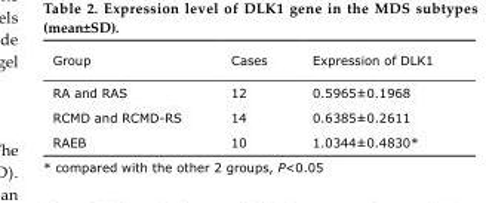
<table><thead><tr><td>Group</td><td>Cases</td><td>Expression of DLK1</td></tr></thead><tbody><tr><td>RA and RAS</td><td>12</td><td>0.5965±0.1968</td></tr><tr><td>RCMD and RCMD-RS</td><td>14</td><td>0.6385±0.2611</td></tr><tr><td>RAEB</td><td>10</td><td>1.0344±0.4830*</td></tr></tbody></table>